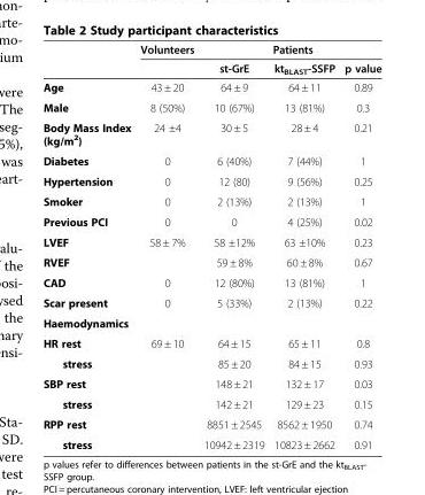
<table><thead><tr><td rowspan="2"></td><td rowspan="2">Volunteers</td><td colspan="3">Patients</td></tr><tr><td>st-GrE</td><td>kt<sub>BLAST</sub>-SSFP</td><td>p value</td></tr></thead><tbody><tr><td>Age</td><td>43 ± 20</td><td>64 ± 9</td><td>64 ± 11</td><td>0.89</td></tr><tr><td>Male</td><td>8 (50%)</td><td>10 (67%)</td><td>13 (81%)</td><td>0.3</td></tr><tr><td>Body Mass Index (kg/m<sup>2</sup>)</td><td>24 ±4</td><td>30 ± 5</td><td>28 ± 4</td><td>0.21</td></tr><tr><td>Diabetes</td><td>0</td><td>6 (40%)</td><td>7 (44%)</td><td>1</td></tr><tr><td>Hypertension</td><td>0</td><td>12 (80)</td><td>9 (56%)</td><td>0.25</td></tr><tr><td>Smoker</td><td>0</td><td>2 (13%)</td><td>2 (13%)</td><td>1</td></tr><tr><td>Previous PCI</td><td>0</td><td>0</td><td>4 (25%)</td><td>0.02</td></tr><tr><td>LVEF</td><td>58 ± 7%</td><td>58 ±12%</td><td>63 ±10%</td><td>0.23</td></tr><tr><td>RVEF</td><td></td><td>59 ± 8%</td><td>60 ± 8%</td><td>0.67</td></tr><tr><td>CAD</td><td>0</td><td>12 (80%)</td><td>13 (81%)</td><td>1</td></tr><tr><td>Scar present</td><td>0</td><td>5 (33%)</td><td>2 (13%)</td><td>0.22</td></tr><tr><td colspan="5">Haemodynamics</td></tr><tr><td>HR rest</td><td>69 ± 10</td><td>64 ± 15</td><td>65 ± 11</td><td>0.8</td></tr><tr><td>stress</td><td></td><td>85 ± 20</td><td>84 ± 15</td><td>0.93</td></tr><tr><td>SBP rest</td><td></td><td>148 ± 21</td><td>132 ± 17</td><td>0.03</td></tr><tr><td>stress</td><td></td><td>142 ± 21</td><td>129 ± 23</td><td>0.15</td></tr><tr><td>RPP rest</td><td></td><td>8851 ± 2545</td><td>8562 ± 1950</td><td>0.74</td></tr><tr><td>stress</td><td></td><td>10942 ± 2319</td><td>10823 ± 2662</td><td>0.91</td></tr></tbody></table>